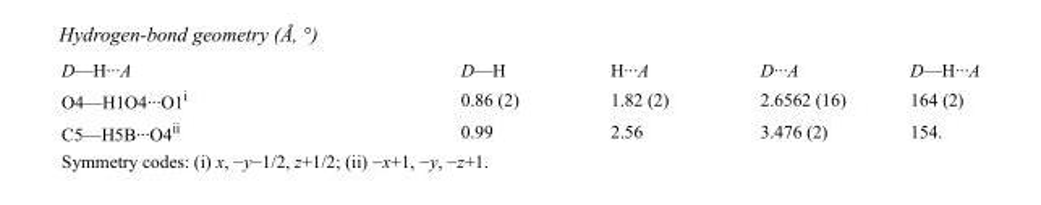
<table><tbody><tr><td>D—H···A</td><td>D—H</td><td>H···A</td><td>D···A</td><td>D—H···A</td></tr><tr><td>O4—H1O4···O1<sup>i</sup></td><td>0.86 (2)</td><td>1.82 (2)</td><td>2.6562 (16)</td><td>164 (2)</td></tr><tr><td>C5—H5B···O4<sup>ii</sup></td><td>0.99</td><td>2.56</td><td>3.476 (2)</td><td>154.</td></tr></tbody></table>